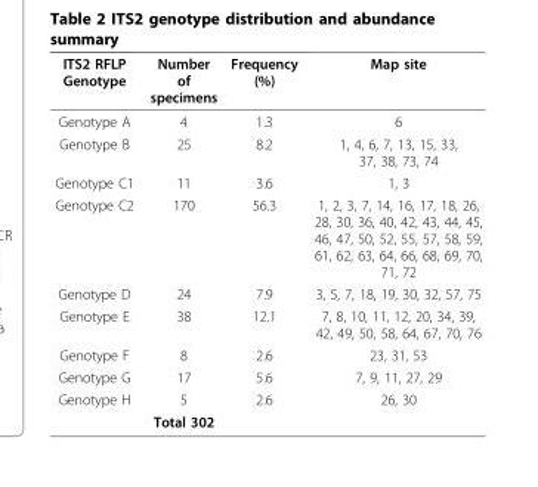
<table><thead><tr><td>ITS2 RFLP Genotype</td><td>Number of specimens</td><td>Frequency (%)</td><td>Map site</td></tr></thead><tbody><tr><td>Genotype A</td><td>4</td><td>1.3</td><td>6</td></tr><tr><td>Genotype B</td><td>25</td><td>8.2</td><td>1, 4, 6, 7, 13, 15, 33, 37, 38, 73, 74</td></tr><tr><td>Genotype C1</td><td>11</td><td>3.6</td><td>1, 3</td></tr><tr><td>Genotype C2</td><td>170</td><td>56.3</td><td>1, 2, 3, 7, 14, 16, 17, 18, 26, 28, 30, 36, 40, 42, 43, 44, 45, 46, 47, 50, 52, 55, 57, 58, 59, 61, 62, 63, 64, 66, 68, 69, 70, 71, 72</td></tr><tr><td>Genotype D</td><td>24</td><td>7.9</td><td>3, 5, 7, 18, 19, 30, 32, 57, 75</td></tr><tr><td>Genotype E</td><td>38</td><td>12.1</td><td>7, 8, 10, 11, 12, 20, 34, 39, 42, 49, 50, 58, 64, 67, 70, 76</td></tr><tr><td>Genotype F</td><td>8</td><td>2.6</td><td>23, 31, 53</td></tr><tr><td>Genotype G</td><td>17</td><td>5.6</td><td>7, 9, 11, 27, 29</td></tr><tr><td rowspan="2">Genotype H</td><td>5</td><td>2.6</td><td>26, 30</td></tr><tr><td>Total 302</td><td></td><td></td></tr></tbody></table>